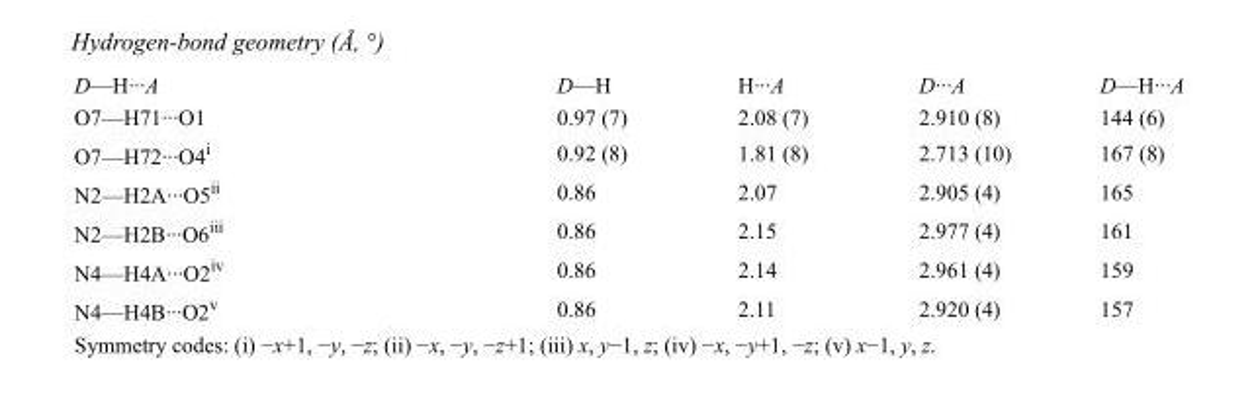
<table><tbody><tr><td>D—H···A</td><td>D—H</td><td>H···A</td><td>D···A</td><td>D—H···A</td></tr><tr><td>O7—H71···O1</td><td>0.97 (7)</td><td>2.08 (7)</td><td>2.910 (8)</td><td>144 (6)</td></tr><tr><td>O7—H72···O4<sup>i</sup></td><td>0.92 (8)</td><td>1.81 (8)</td><td>2.713 (10)</td><td>167 (8)</td></tr><tr><td>N2—H2A···O5<sup>ii</sup></td><td>0.86</td><td>2.07</td><td>2.905 (4)</td><td>165</td></tr><tr><td>N2—H2B···O6<sup>iii</sup></td><td>0.86</td><td>2.15</td><td>2.977 (4)</td><td>161</td></tr><tr><td>N4—H4A···O2<sup>iv</sup></td><td>0.86</td><td>2.14</td><td>2.961 (4)</td><td>159</td></tr><tr><td>N4—H4B···O2<sup>v</sup></td><td>0.86</td><td>2.11</td><td>2.920 (4)</td><td>157</td></tr></tbody></table>